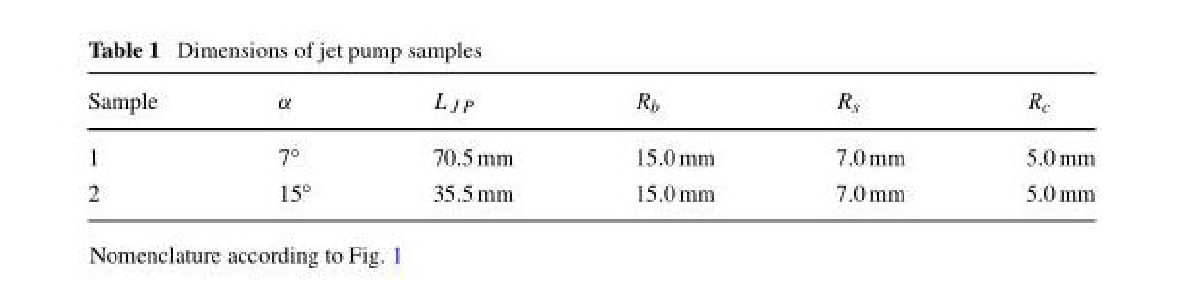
<table><thead><tr><td>Sample</td><td>α</td><td>L<sub>JP</sub></td><td>R<sub>b</sub></td><td>R<sub>s</sub></td><td>R<sub>c</sub></td></tr></thead><tbody><tr><td>1</td><td>7◦</td><td>70.5 mm</td><td>15.0 mm</td><td>7.0 mm</td><td>5.0 mm</td></tr><tr><td>2</td><td>15◦</td><td>35.5 mm</td><td>15.0 mm</td><td>7.0 mm</td><td>5.0 mm</td></tr></tbody></table>